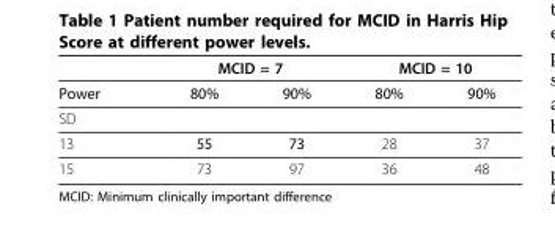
<table><thead><tr><td rowspan="2">Power</td><td colspan="2">MCID = 7</td><td colspan="2">MCID = 10</td></tr><tr><td>80%</td><td>90%</td><td>80%</td><td>90%</td></tr></thead><tbody><tr><td colspan="5">SD</td></tr><tr><td>13</td><td>55</td><td>73</td><td>28</td><td>37</td></tr><tr><td>15</td><td>73</td><td>97</td><td>36</td><td>48</td></tr></tbody></table>